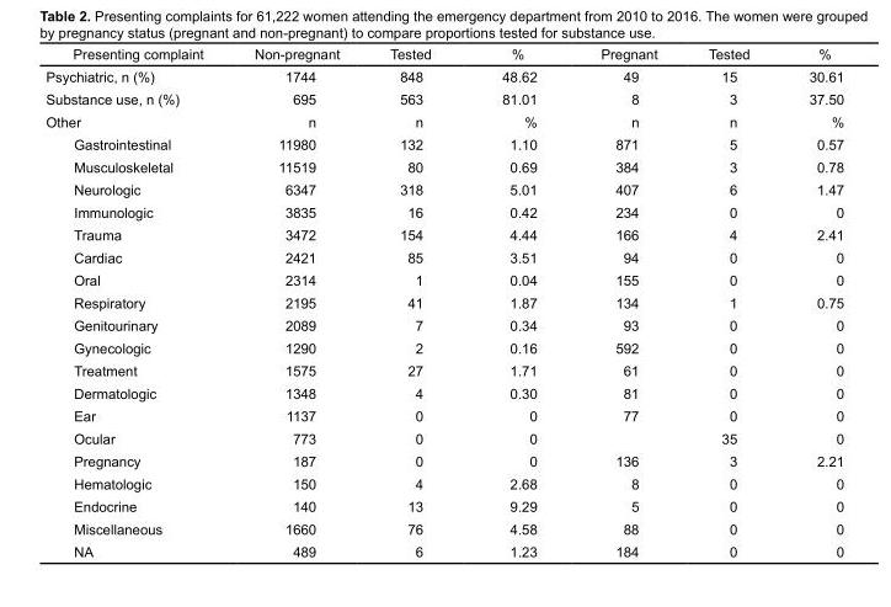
<table><thead><tr><td>Presenting complaint</td><td>Non-pregnant</td><td>Tested</td><td>%</td><td>Pregnant</td><td>Tested</td><td>%</td></tr></thead><tbody><tr><td>Psychiatric, n (%)</td><td>1744</td><td>848</td><td>48.62</td><td>49</td><td>15</td><td>30.61</td></tr><tr><td>Substance use, n (%)</td><td>695</td><td>563</td><td>81.01</td><td>8</td><td>3</td><td>37.50</td></tr><tr><td>Other</td><td>n</td><td>n</td><td>%</td><td>n</td><td>n</td><td>%</td></tr><tr><td>Gastrointestinal</td><td>11980</td><td>132</td><td>1.10</td><td>871</td><td>5</td><td>0.57</td></tr><tr><td>Musculoskeletal</td><td>11519</td><td>80</td><td>0.69</td><td>384</td><td>3</td><td>0.78</td></tr><tr><td>Neurologic</td><td>6347</td><td>318</td><td>5.01</td><td>407</td><td>6</td><td>1.47</td></tr><tr><td>Immunologic</td><td>3835</td><td>16</td><td>0.42</td><td>234</td><td>0</td><td>0</td></tr><tr><td>Trauma</td><td>3472</td><td>154</td><td>4.44</td><td>166</td><td>4</td><td>2.41</td></tr><tr><td>Cardiac</td><td>2421</td><td>85</td><td>3.51</td><td>94</td><td>0</td><td>0</td></tr><tr><td>Oral</td><td>2314</td><td>1</td><td>0.04</td><td>155</td><td>0</td><td>0</td></tr><tr><td>Respiratory</td><td>2195</td><td>41</td><td>1.87</td><td>134</td><td>1</td><td>0.75</td></tr><tr><td>Genitourinary</td><td>2089</td><td>7</td><td>0.34</td><td>93</td><td>0</td><td>0</td></tr><tr><td>Gynecologic</td><td>1290</td><td>2</td><td>0.16</td><td>592</td><td>0</td><td>0</td></tr><tr><td>Treatment</td><td>1575</td><td>27</td><td>1.71</td><td>61</td><td>0</td><td>0</td></tr><tr><td>Dermatologic</td><td>1348</td><td>4</td><td>0.30</td><td>81</td><td>0</td><td>0</td></tr><tr><td>Ear</td><td>1137</td><td>0</td><td>0</td><td>77</td><td>0</td><td>0</td></tr><tr><td>Ocular</td><td>773</td><td>0</td><td>0</td><td></td><td>35</td><td>0</td></tr><tr><td>Pregnancy</td><td>187</td><td>0</td><td>0</td><td>136</td><td>3</td><td>2.21</td></tr><tr><td>Hematologic</td><td>150</td><td>4</td><td>2.68</td><td>8</td><td>0</td><td>0</td></tr><tr><td>Endocrine</td><td>140</td><td>13</td><td>9.29</td><td>5</td><td>0</td><td>0</td></tr><tr><td>Miscellaneous</td><td>1660</td><td>76</td><td>4.58</td><td>88</td><td>0</td><td>0</td></tr><tr><td>NA</td><td>489</td><td>6</td><td>1.23</td><td>184</td><td>0</td><td>0</td></tr></tbody></table>